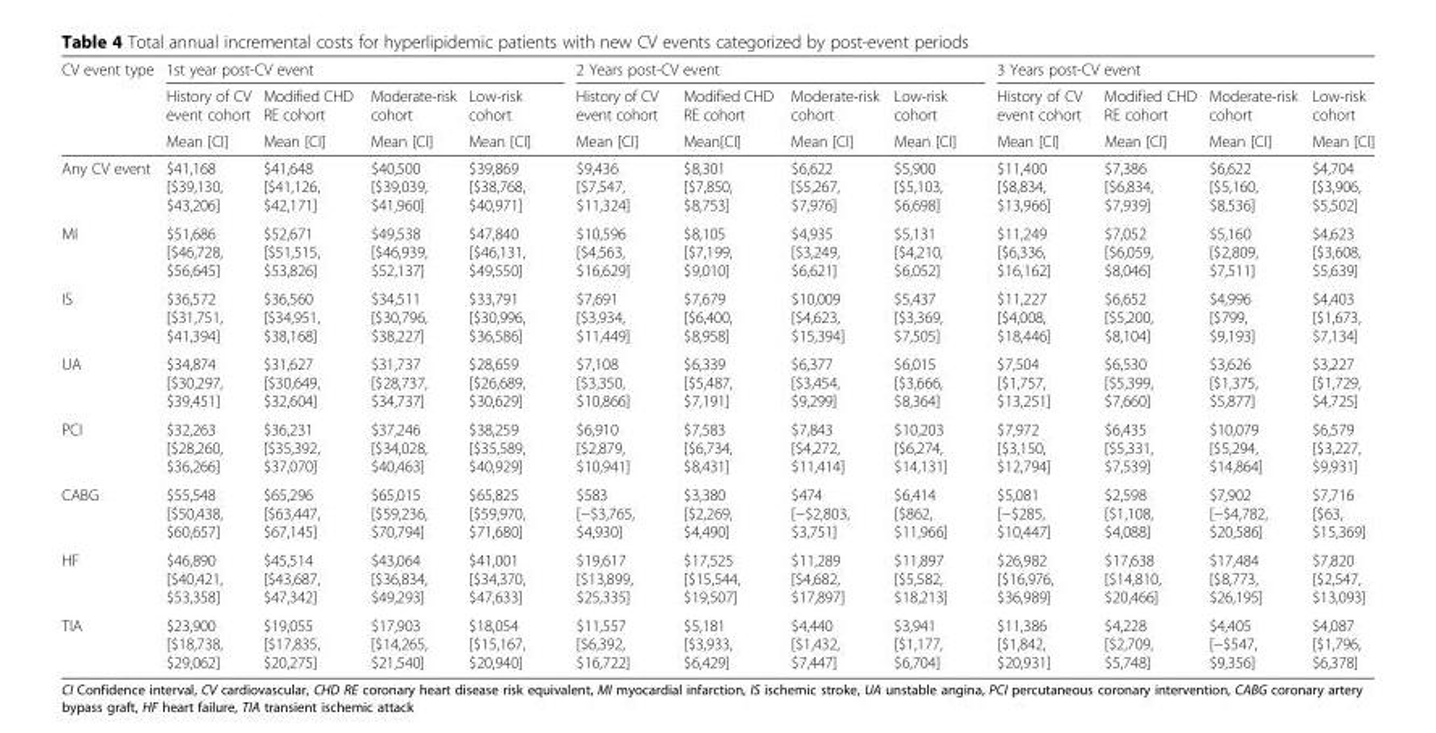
<table><thead><tr><td rowspan="3">CV event type</td><td colspan="4">1st year post-CV event</td><td colspan="4">2 Years post-CV event</td><td colspan="4">3 Years post-CV event</td></tr><tr><td rowspan="2">History of CV event cohort Mean [CI]</td><td rowspan="2">Modified CHD RE cohort Mean [CI]</td><td rowspan="2">Moderate-risk cohort Mean [CI]</td><td rowspan="2">Low-risk cohort Mean [CI]</td><td rowspan="2">History of CV event cohort Mean [CI]</td><td rowspan="2">Modified CHD RE cohort Mean[CI]</td><td rowspan="2">Moderate-risk cohort Mean [CI]</td><td rowspan="2">Low-risk cohort Mean [CI]</td><td rowspan="2">History of CV event cohort Mean [CI]</td><td rowspan="2">Modified CHD RE cohort Mean [CI]</td><td rowspan="2">Moderate-risk cohort Mean [CI]</td><td rowspan="2">Low-risk cohort Mean [CI]</td></tr><tr></tr></thead><tbody><tr><td>Any CV event</td><td>$41,168 [$39,130, $43,206]</td><td>$41,648 [$41,126, $42,171]</td><td>$40,500 [$39,039, $41,960]</td><td>$39,869 [$38,768, $40,971]</td><td>$9,436 [$7,547, $11,324]</td><td>$8,301 [$7,850, $8,753]</td><td>$6,622 [$5,267, $7,976]</td><td>$5,900 [$5,103, $6,698]</td><td>$11,400 [$8,834, $13,966]</td><td>$7,386 [$6,834, $7,939]</td><td>$6,622 [$5,160, $8,536]</td><td>$4,704 [$3,906, $5,502]</td></tr><tr><td>MI</td><td>$51,686 [$46,728, $56,645]</td><td>$52,671 [$51,515, $53,826]</td><td>$49,538 [$46,939, $52,137]</td><td>$47,840 [$46,131, $49,550]</td><td>$10,596 [$4,563, $16,629]</td><td>$8,105 [$7,199, $9,010]</td><td>$4,935 [$3,249, $6,621]</td><td>$5,131 [$4,210, $6,052]</td><td>$11,249 [$6,336, $16,162]</td><td>$7,052 [$6,059, $8,046]</td><td>$5,160 [$2,809, $7,511]</td><td>$4,623 [$3,608, $5,639]</td></tr><tr><td>IS</td><td>$36,572 [$31,751, $41,394]</td><td>$36,560 [$34,951, $38,168]</td><td>$34,511 [$30,796, $38,227]</td><td>$33,791 [$30,996, $36,586]</td><td>$7,691 [$3,934, $11,449]</td><td>$7,679 [$6,400, $8,958]</td><td>$10,009 [$4,623, $15,394]</td><td>$5,437 [$3,369, $7,505]</td><td>$11,227 [$4,008, $18,446]</td><td>$6,652 [$5,200, $8,104]</td><td>$4,996 [$799, $9,193]</td><td>$4,403 [$1,673, $7,134]</td></tr><tr><td>UA</td><td>$34,874 [$30,297, $39,451]</td><td>$31,627 [$30,649, $32,604]</td><td>$31,737 [$28,737, $34,737]</td><td>$28,659 [$26,689, $30,629]</td><td>$7,108 [$3,350, $10,866]</td><td>$6,339 [$5,487, $7,191]</td><td>$6,377 [$3,454, $9,299]</td><td>$6,015 [$3,666, $8,364]</td><td>$7,504 [$1,757, $13,251]</td><td>$6,530 [$5,399, $7,660]</td><td>$3,626 [$1,375, $5,877]</td><td>$3,227 [$1,729, $4,725]</td></tr><tr><td>PCI</td><td>$32,263 [$28,260, $36,266]</td><td>$36,231 [$35,392, $37,070]</td><td>$37,246 [$34,028, $40,463]</td><td>$38,259 [$35,589, $40,929]</td><td>$6,910 [$2,879, $10,941]</td><td>$7,583 [$6,734, $8,431]</td><td>$7,843 [$4,272, $11,414]</td><td>$10,203 [$6,274, $14,131]</td><td>$7,972 [$3,150, $12,794]</td><td>$6,435 [$5,331, $7,539]</td><td>$10,079 [$5,294, $14,864]</td><td>$6,579 [$3,227, $9,931]</td></tr><tr><td>CABG</td><td>$55,548 [$50,438, $60,657]</td><td>$65,296 [$63,447, $67,145]</td><td>$65,015 [$59,236, $70,794]</td><td>$65,825 [$59,970, $71,680]</td><td>$583 [−$3,765, $4,930]</td><td>$3,380 [$2,269, $4,490]</td><td>$474 [−$2,803, $3,751]</td><td>$6,414 [$862, $11,966]</td><td>$5,081 [−$285, $10,447]</td><td>$2,598 [$1,108, $4,088]</td><td>$7,902 [−$4,782, $20,586]</td><td>$7,716 [$63, $15,369]</td></tr><tr><td>HF</td><td>$46,890 [$40,421, $53,358]</td><td>$45,514 [$43,687, $47,342]</td><td>$43,064 [$36,834, $49,293]</td><td>$41,001 [$34,370, $47,633]</td><td>$19,617 [$13,899, $25,335]</td><td>$17,525 [$15,544, $19,507]</td><td>$11,289 [$4,682, $17,897]</td><td>$11,897 [$5,582, $18,213]</td><td>$26,982 [$16,976, $36,989]</td><td>$17,638 [$14,810, $20,466]</td><td>$17,484 [$8,773, $26,195]</td><td>$7,820 [$2,547, $13,093]</td></tr><tr><td>TIA</td><td>$23,900 [$18,738, $29,062]</td><td>$19,055 [$17,835, $20,275]</td><td>$17,903 [$14,265, $21,540]</td><td>$18,054 [$15,167, $20,940]</td><td>$11,557 [$6,392, $16,722]</td><td>$5,181 [$3,933, $6,429]</td><td>$4,440 [$1,432, $7,447]</td><td>$3,941 [$1,177, $6,704]</td><td>$11,386 [$1,842, $20,931]</td><td>$4,228 [$2,709, $5,748]</td><td>$4,405 [−$547, $9,356]</td><td>$4,087 [$1,796, $6,378]</td></tr></tbody></table>